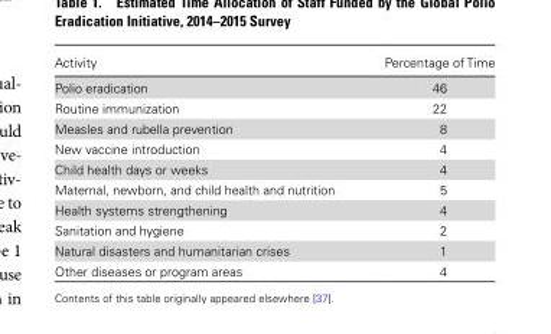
<table><thead><tr><td>Activity</td><td>Percentage of Time</td></tr></thead><tbody><tr><td>Polio eradication</td><td>46</td></tr><tr><td>Routine immunization</td><td>22</td></tr><tr><td>Measles and rubella prevention</td><td>8</td></tr><tr><td>New vaccine introduction</td><td>4</td></tr><tr><td>Child health days or weeks</td><td>4</td></tr><tr><td>Maternal, newborn, and child health and nutrition</td><td>5</td></tr><tr><td>Health systems strengthening</td><td>4</td></tr><tr><td>Sanitation and hygiene</td><td>2</td></tr><tr><td>Natural disasters and humanitarian crises</td><td>1</td></tr><tr><td>Other diseases or program areas</td><td>4</td></tr></tbody></table>